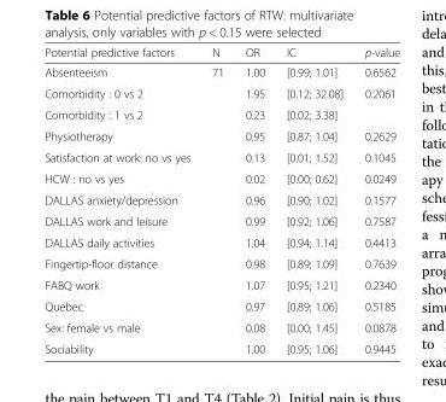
<table><thead><tr><td>Potential predictive factors</td><td>N</td><td>OR</td><td>IC</td><td>p-value</td></tr></thead><tbody><tr><td>Absenteeism</td><td>71</td><td>1.00</td><td>[0.99; 1.01]</td><td>0.6562</td></tr><tr><td>Comorbidity : 0 vs 2</td><td></td><td>1.95</td><td>[0.12; 32.08]</td><td>0.2061</td></tr><tr><td>Comorbidity : 1 vs 2</td><td></td><td>0.23</td><td>[0.02; 3.38]</td><td></td></tr><tr><td>Physiotherapy</td><td></td><td>0.95</td><td>[0.87; 1.04]</td><td>0.2629</td></tr><tr><td>Satisfaction at work: no vs yes</td><td></td><td>0.13</td><td>[0.01; 1.52]</td><td>0.1045</td></tr><tr><td>HCW : no vs yes</td><td></td><td>0.02</td><td>[0.00; 0.62]</td><td>0.0249</td></tr><tr><td>DALLAS anxiety/depression</td><td></td><td>0.96</td><td>[0.90; 1.02]</td><td>0.1577</td></tr><tr><td>DALLAS work and leisure</td><td></td><td>0.99</td><td>[0.92; 1.06]</td><td>0.7587</td></tr><tr><td>DALLAS daily activities</td><td></td><td>1.04</td><td>[0.94; 1.14]</td><td>0.4413</td></tr><tr><td>Fingertip-floor distance</td><td></td><td>0.98</td><td>[0.89; 1.09]</td><td>0.7639</td></tr><tr><td>FABQ work</td><td></td><td>1.07</td><td>[0.95; 1.21]</td><td>0.2340</td></tr><tr><td>Quebec</td><td></td><td>0.97</td><td>[0.89; 1.06]</td><td>0.5185</td></tr><tr><td>Sex: female vs male</td><td></td><td>0.08</td><td>[0.00; 1.45]</td><td>0.0878</td></tr><tr><td>Sociability</td><td></td><td>1.00</td><td>[0.95; 1.06]</td><td>0.9445</td></tr></tbody></table>